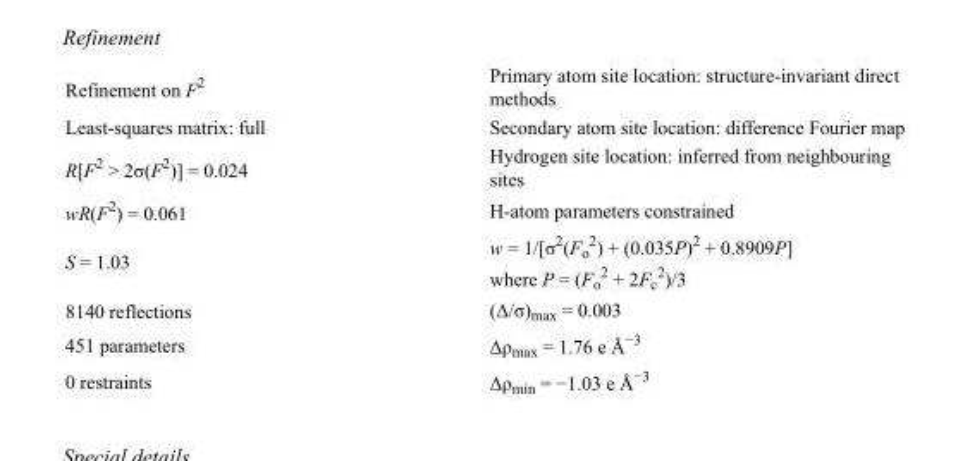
<table><tbody><tr><td>Refinement on F<sup>2</sup></td><td>Primary atom site location: structure-invariant direct methods</td></tr><tr><td>Least-squares matrix: full</td><td>Secondary atom site location: difference Fourier map</td></tr><tr><td>R[F<sup>2</sup> &gt; 2σ(F<sup>2</sup>)] = 0.024</td><td>Hydrogen site location: inferred from neighbouring sites</td></tr><tr><td>wR(F<sup>2</sup>) = 0.061</td><td>H-atom parameters constrained</td></tr><tr><td>S = 1.03</td><td>w = 1/[σ<sup>2</sup>(F<sub>o</sub> <sup>2</sup>) + (0.035P)<sup>2</sup> + 0.8909P] where P = (F<sub>o</sub> <sup>2</sup> + 2F<sub>c</sub> <sup>2</sup>)/3</td></tr><tr><td>8140 reflections</td><td>(Δ/σ)<sub>max</sub> = 0.003</td></tr><tr><td>451 parameters</td><td>Δρ<sub>max</sub> = 1.76 e Å<sup>−3</sup></td></tr><tr><td>0 restraints</td><td>Δρ<sub>min</sub> = −1.03 e Å<sup>−3</sup></td></tr></tbody></table>